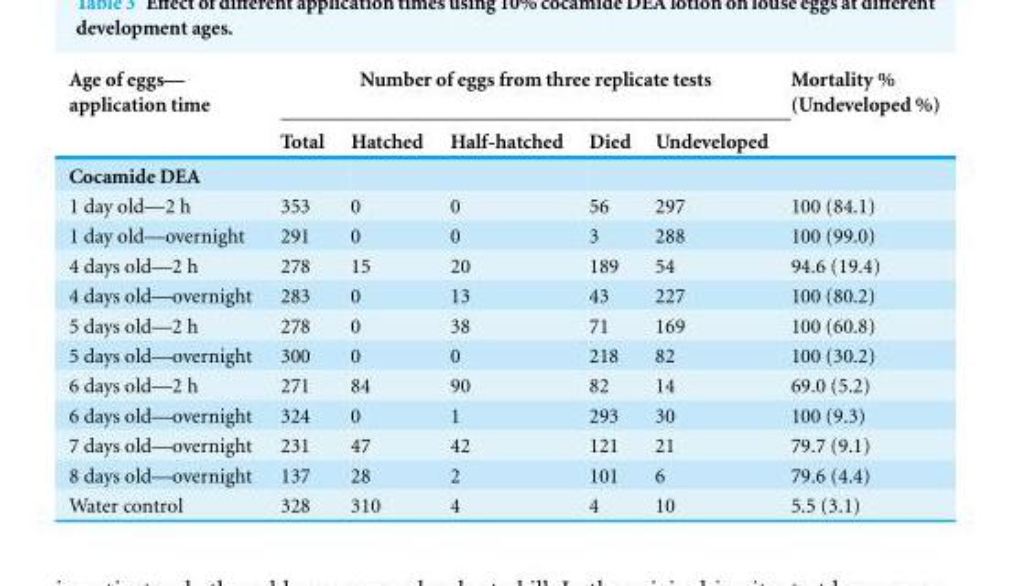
<table><thead><tr><td rowspan="2">Age of eggs— application time</td><td colspan="5">Number of eggs from three replicate tests</td><td rowspan="2">Mortality % (Undeveloped %)</td></tr><tr><td>Total</td><td>Hatched</td><td>Half-hatched</td><td>Died</td><td>Undeveloped</td></tr></thead><tbody><tr><td colspan="7">Cocamide DEA</td></tr><tr><td>1 day old—2 h</td><td>353</td><td>0</td><td>0</td><td>56</td><td>297</td><td>100 (84.1)</td></tr><tr><td>1 day old—overnight</td><td>291</td><td>0</td><td>0</td><td>3</td><td>288</td><td>100 (99.0)</td></tr><tr><td>4 days old—2 h</td><td>278</td><td>15</td><td>20</td><td>189</td><td>54</td><td>94.6 (19.4)</td></tr><tr><td>4 days old—overnight</td><td>283</td><td>0</td><td>13</td><td>43</td><td>227</td><td>100 (80.2)</td></tr><tr><td>5 days old—2 h</td><td>278</td><td>0</td><td>38</td><td>71</td><td>169</td><td>100 (60.8)</td></tr><tr><td>5 days old—overnight</td><td>300</td><td>0</td><td>0</td><td>218</td><td>82</td><td>100 (30.2)</td></tr><tr><td>6 days old—2 h</td><td>271</td><td>84</td><td>90</td><td>82</td><td>14</td><td>69.0 (5.2)</td></tr><tr><td>6 days old—overnight</td><td>324</td><td>0</td><td>1</td><td>293</td><td>30</td><td>100 (9.3)</td></tr><tr><td>7 days old—overnight</td><td>231</td><td>47</td><td>42</td><td>121</td><td>21</td><td>79.7 (9.1)</td></tr><tr><td>8 days old—overnight</td><td>137</td><td>28</td><td>2</td><td>101</td><td>6</td><td>79.6 (4.4)</td></tr><tr><td>Water control</td><td>328</td><td>310</td><td>4</td><td>4</td><td>10</td><td>5.5 (3.1)</td></tr></tbody></table>